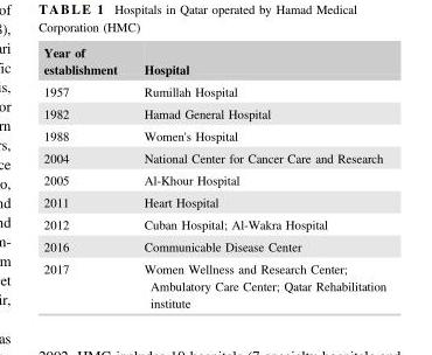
<table><thead><tr><td>Year of establishment</td><td>Hospital</td></tr></thead><tbody><tr><td>1957</td><td>Rumillah Hospital</td></tr><tr><td>1982</td><td>Hamad General Hospital</td></tr><tr><td>1988</td><td>Women&#x27;s Hospital</td></tr><tr><td>2004</td><td>National Center for Cancer Care and Research</td></tr><tr><td>2005</td><td>Al‐Khour Hospital</td></tr><tr><td>2011</td><td>Heart Hospital</td></tr><tr><td>2012</td><td>Cuban Hospital; Al‐Wakra Hospital</td></tr><tr><td>2016</td><td>Communicable Disease Center</td></tr><tr><td>2017</td><td>Women Wellness and Research Center; Ambulatory Care Center; Qatar Rehabilitation institute</td></tr></tbody></table>